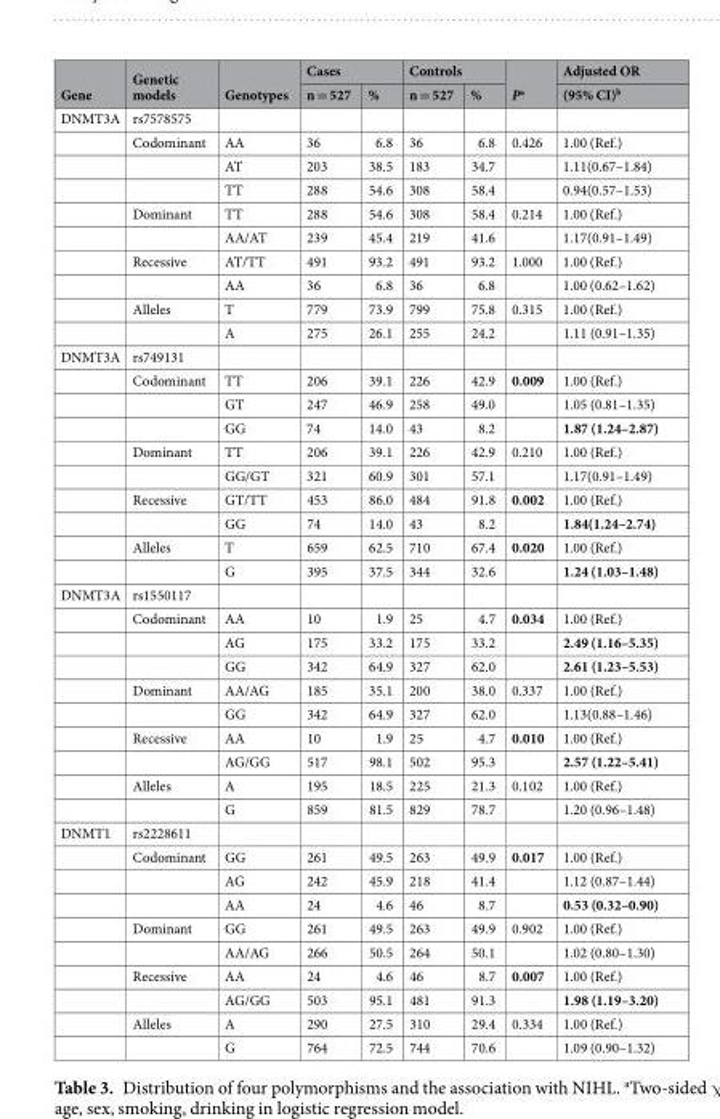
<table><thead><tr><td rowspan="2">Gene</td><td rowspan="2">Genetic models</td><td rowspan="2">Genotypes</td><td colspan="2">Cases</td><td colspan="2">Controls</td><td rowspan="2">P<sup>a</sup></td><td rowspan="2">Adjusted OR (95% CI)<sup>b</sup></td></tr><tr><td>n = 527</td><td>%</td><td>n = 527</td><td>%</td></tr></thead><tbody><tr><td rowspan="10">DNMT3A</td><td>rs7578575</td><td></td><td></td><td></td><td></td><td></td><td></td><td></td></tr><tr><td>Codominant</td><td>AA</td><td>36</td><td>6.8</td><td>36</td><td>6.8</td><td>0.426</td><td>1.00 (Ref.)</td></tr><tr><td></td><td>AT</td><td>203</td><td>38.5</td><td>183</td><td>34.7</td><td></td><td>1.11(0.67–1.84)</td></tr><tr><td></td><td>TT</td><td>288</td><td>54.6</td><td>308</td><td>58.4</td><td></td><td>0.94(0.57–1.53)</td></tr><tr><td>Dominant</td><td>TT</td><td>288</td><td>54.6</td><td>308</td><td>58.4</td><td>0.214</td><td>1.00 (Ref.)</td></tr><tr><td></td><td>AA/AT</td><td>239</td><td>45.4</td><td>219</td><td>41.6</td><td></td><td>1.17(0.91–1.49)</td></tr><tr><td>Recessive</td><td>AT/TT</td><td>491</td><td>93.2</td><td>491</td><td>93.2</td><td>1.000</td><td>1.00 (Ref.)</td></tr><tr><td></td><td>AA</td><td>36</td><td>6.8</td><td>36</td><td>6.8</td><td></td><td>1.00 (0.62–1.62)</td></tr><tr><td>Alleles</td><td>T</td><td>779</td><td>73.9</td><td>799</td><td>75.8</td><td>0.315</td><td>1.00 (Ref.)</td></tr><tr><td></td><td>A</td><td>275</td><td>26.1</td><td>255</td><td>24.2</td><td></td><td>1.11 (0.91–1.35)</td></tr><tr><td rowspan="10">DNMT3A</td><td>rs749131</td><td></td><td></td><td></td><td></td><td></td><td></td><td></td></tr><tr><td>Codominant</td><td>TT</td><td>206</td><td>39.1</td><td>226</td><td>42.9</td><td>0.009</td><td>1.00 (Ref.)</td></tr><tr><td></td><td>GT</td><td>247</td><td>46.9</td><td>258</td><td>49.0</td><td></td><td>1.05 (0.81–1.35)</td></tr><tr><td></td><td>GG</td><td>74</td><td>14.0</td><td>43</td><td>8.2</td><td></td><td>1.87 (1.24–2.87)</td></tr><tr><td>Dominant</td><td>TT</td><td>206</td><td>39.1</td><td>226</td><td>42.9</td><td>0.210</td><td>1.00 (Ref.)</td></tr><tr><td></td><td>GG/GT</td><td>321</td><td>60.9</td><td>301</td><td>57.1</td><td></td><td>1.17(0.91–1.49)</td></tr><tr><td>Recessive</td><td>GT/TT</td><td>453</td><td>86.0</td><td>484</td><td>91.8</td><td>0.002</td><td>1.00 (Ref.)</td></tr><tr><td></td><td>GG</td><td>74</td><td>14.0</td><td>43</td><td>8.2</td><td></td><td>1.84(1.24–2.74)</td></tr><tr><td>Alleles</td><td>T</td><td>659</td><td>62.5</td><td>710</td><td>67.4</td><td>0.020</td><td>1.00 (Ref.)</td></tr><tr><td></td><td>G</td><td>395</td><td>37.5</td><td>344</td><td>32.6</td><td></td><td>1.24 (1.03–1.48)</td></tr><tr><td rowspan="10">DNMT3A</td><td>rs1550117</td><td></td><td></td><td></td><td></td><td></td><td></td><td></td></tr><tr><td>Codominant</td><td>AA</td><td>10</td><td>1.9</td><td>25</td><td>4.7</td><td>0.034</td><td>1.00 (Ref.)</td></tr><tr><td></td><td>AG</td><td>175</td><td>33.2</td><td>175</td><td>33.2</td><td></td><td>2.49 (1.16–5.35)</td></tr><tr><td></td><td>GG</td><td>342</td><td>64.9</td><td>327</td><td>62.0</td><td></td><td>2.61 (1.23–5.53)</td></tr><tr><td>Dominant</td><td>AA/AG</td><td>185</td><td>35.1</td><td>200</td><td>38.0</td><td>0.337</td><td>1.00 (Ref.)</td></tr><tr><td></td><td>GG</td><td>342</td><td>64.9</td><td>327</td><td>62.0</td><td></td><td>1.13(0.88–1.46)</td></tr><tr><td>Recessive</td><td>AA</td><td>10</td><td>1.9</td><td>25</td><td>4.7</td><td>0.010</td><td>1.00 (Ref.)</td></tr><tr><td></td><td>AG/GG</td><td>517</td><td>98.1</td><td>502</td><td>95.3</td><td></td><td>2.57 (1.22–5.41)</td></tr><tr><td>Alleles</td><td>A</td><td>195</td><td>18.5</td><td>225</td><td>21.3</td><td>0.102</td><td>1.00 (Ref.)</td></tr><tr><td></td><td>G</td><td>859</td><td>81.5</td><td>829</td><td>78.7</td><td></td><td>1.20 (0.96–1.48)</td></tr><tr><td rowspan="10">DNMT1</td><td>rs2228611</td><td></td><td></td><td></td><td></td><td></td><td></td><td></td></tr><tr><td>Codominant</td><td>GG</td><td>261</td><td>49.5</td><td>263</td><td>49.9</td><td>0.017</td><td>1.00 (Ref.)</td></tr><tr><td></td><td>AG</td><td>242</td><td>45.9</td><td>218</td><td>41.4</td><td></td><td>1.12 (0.87–1.44)</td></tr><tr><td></td><td>AA</td><td>24</td><td>4.6</td><td>46</td><td>8.7</td><td></td><td>0.53 (0.32–0.90)</td></tr><tr><td>Dominant</td><td>GG</td><td>261</td><td>49.5</td><td>263</td><td>49.9</td><td>0.902</td><td>1.00 (Ref.)</td></tr><tr><td></td><td>AA/AG</td><td>266</td><td>50.5</td><td>264</td><td>50.1</td><td></td><td>1.02 (0.80–1.30)</td></tr><tr><td>Recessive</td><td>AA</td><td>24</td><td>4.6</td><td>46</td><td>8.7</td><td>0.007</td><td>1.00 (Ref.)</td></tr><tr><td></td><td>AG/GG</td><td>503</td><td>95.1</td><td>481</td><td>91.3</td><td></td><td>1.98 (1.19–3.20)</td></tr><tr><td>Alleles</td><td>A</td><td>290</td><td>27.5</td><td>310</td><td>29.4</td><td>0.334</td><td>1.00 (Ref.)</td></tr><tr><td></td><td>G</td><td>764</td><td>72.5</td><td>744</td><td>70.6</td><td></td><td>1.09 (0.90–1.32)</td></tr></tbody></table>